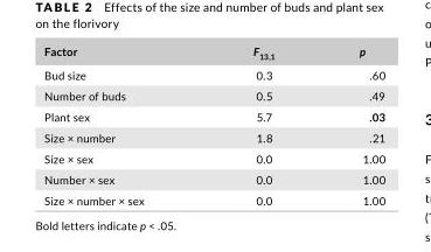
<table><thead><tr><td>Factor</td><td>F<sub>13,1</sub></td><td>p</td></tr></thead><tbody><tr><td>Bud size</td><td>0.3</td><td>.60</td></tr><tr><td>Number of buds</td><td>0.5</td><td>.49</td></tr><tr><td>Plant sex</td><td>5.7</td><td>.03</td></tr><tr><td>Size × number</td><td>1.8</td><td>.21</td></tr><tr><td>Size × sex</td><td>0.0</td><td>1.00</td></tr><tr><td>Number × sex</td><td>0.0</td><td>1.00</td></tr><tr><td>Size × number × sex</td><td>0.0</td><td>1.00</td></tr></tbody></table>